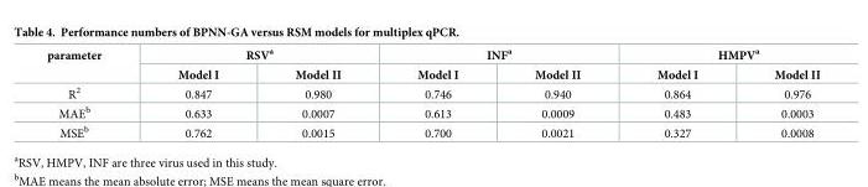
<table><thead><tr><td rowspan="2">parameter</td><td colspan="2">RSV<sup>a</sup></td><td colspan="2">INF<sup>a</sup></td><td colspan="2">HMPV<sup>a</sup></td></tr><tr><td>Model I</td><td>Model II</td><td>Model I</td><td>Model II</td><td>Model I</td><td>Model II</td></tr></thead><tbody><tr><td>R<sup>2</sup></td><td>0.847</td><td>0.980</td><td>0.746</td><td>0.940</td><td>0.864</td><td>0.976</td></tr><tr><td>MAE<sup>b</sup></td><td>0.633</td><td>0.0007</td><td>0.613</td><td>0.0009</td><td>0.483</td><td>0.0003</td></tr><tr><td>MSE<sup>b</sup></td><td>0.762</td><td>0.0015</td><td>0.700</td><td>0.0021</td><td>0.327</td><td>0.0008</td></tr></tbody></table>